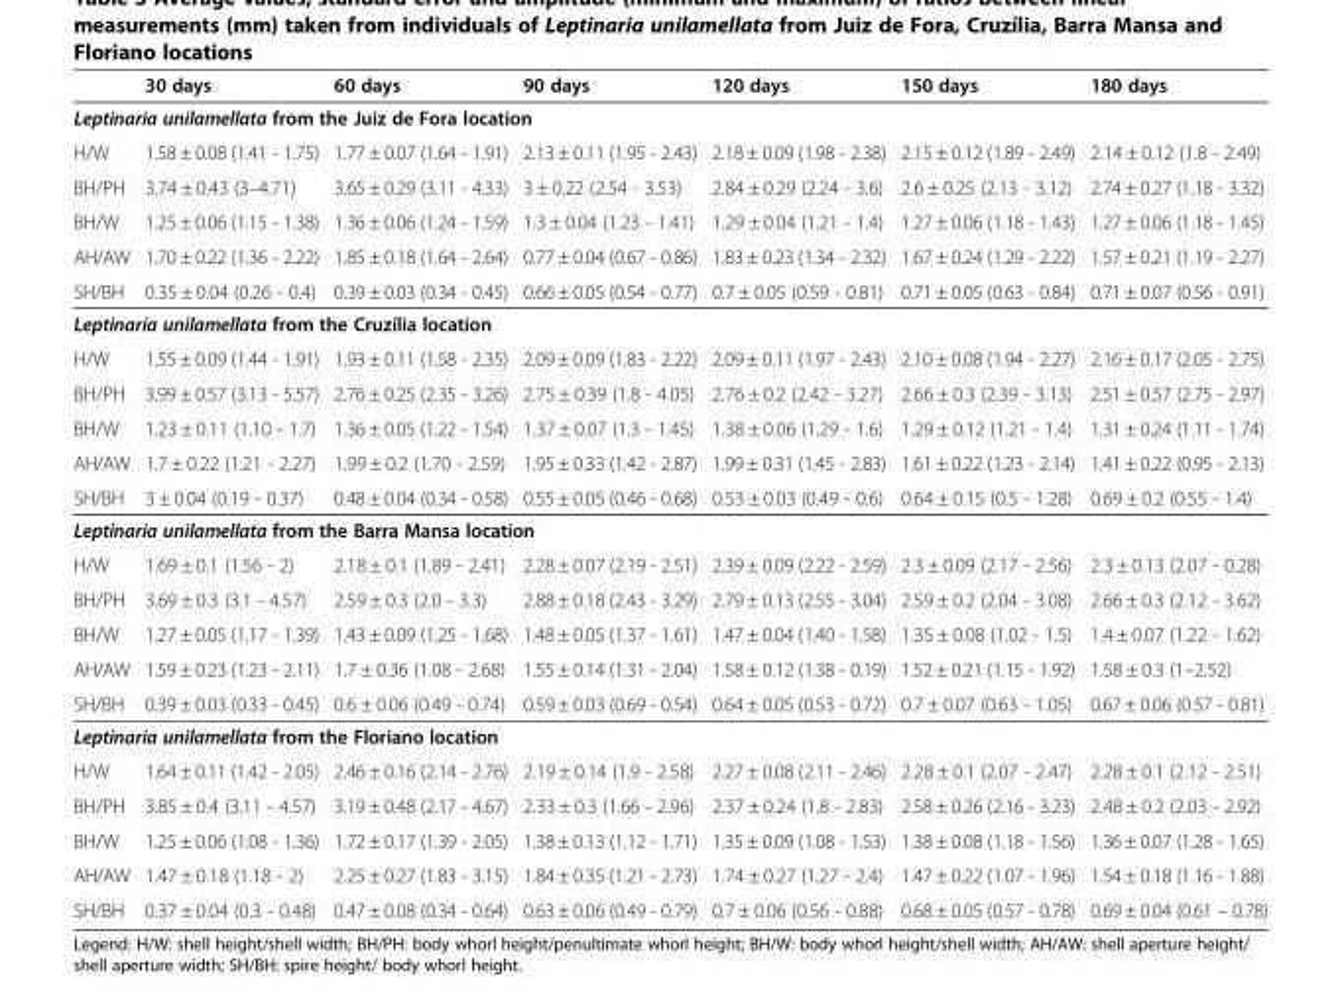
<table><thead><tr><td></td><td>30 days</td><td>60 days</td><td>90 days</td><td>120 days</td><td>150 days</td><td>180 days</td></tr></thead><tbody><tr><td colspan="7">Leptinaria unilamellata from the Juiz de Fora location</td></tr><tr><td>H/W</td><td>1.58 ± 0.08 (1.41 - 1.75)</td><td>1.77 ± 0.07 (1.64 - 1.91)</td><td>2.13 ± 0.11 (1.95 - 2.43)</td><td>2.18 ± 0.09 (1.98 - 2.38)</td><td>2.15 ± 0.12 (1.89 - 2.49)</td><td>2.14 ± 0.12 (1.8 - 2.49)</td></tr><tr><td>BH/PH</td><td>3.74 ± 0.43 (3–4.71)</td><td>3.65 ± 0.29 (3.11 - 4.33)</td><td>3 ± 0.22 (2.54 - 3.53)</td><td>2.84 ± 0.29 (2.24 - 3.6)</td><td>2.6 ± 0.25 (2.13 - 3.12)</td><td>2.74 ± 0.27 (1.18 - 3.32)</td></tr><tr><td>BH/W</td><td>1.25 ± 0.06 (1.15 - 1.38)</td><td>1.36 ± 0.06 (1.24 - 1.59)</td><td>1.3 ± 0.04 (1.23 - 1.41)</td><td>1.29 ± 0.04 (1.21 - 1.4)</td><td>1.27 ± 0.06 (1.18 - 1.43)</td><td>1.27 ± 0.06 (1.18 - 1.45)</td></tr><tr><td>AH/AW</td><td>1.70 ± 0.22 (1.36 - 2.22)</td><td>1.85 ± 0.18 (1.64 - 2.64)</td><td>0.77 ± 0.04 (0.67 - 0.86)</td><td>1.83 ± 0.23 (1.34 - 2.32)</td><td>1.67 ± 0.24 (1.29 - 2.22)</td><td>1.57 ± 0.21 (1.19 - 2.27)</td></tr><tr><td>SH/BH</td><td>0.35 ± 0.04 (0.26 - 0.4)</td><td>0.39 ± 0.03 (0.34 - 0.45)</td><td>0.66 ± 0.05 (0.54 - 0.77)</td><td>0.7 ± 0.05 (0.59 - 0.81)</td><td>0.71 ± 0.05 (0.63 - 0.84)</td><td>0.71 ± 0.07 (0.56 - 0.91)</td></tr><tr><td colspan="7">Leptinaria unilamellata from the Cruzília location</td></tr><tr><td>H/W</td><td>1.55 ± 0.09 (1.44 - 1.91)</td><td>1.93 ± 0.11 (1.58 - 2.35)</td><td>2.09 ± 0.09 (1.83 - 2.22)</td><td>2.09 ± 0.11 (1.97 - 2.43)</td><td>2.10 ± 0.08 (1.94 - 2.27)</td><td>2.16 ± 0.17 (2.05 - 2.75)</td></tr><tr><td>BH/PH</td><td>3.99 ± 0.57 (3.13 - 5.57)</td><td>2.76 ± 0.25 (2.35 - 3.26)</td><td>2.75 ± 0.39 (1.8 - 4.05)</td><td>2.76 ± 0.2 (2.42 - 3.27)</td><td>2.66 ± 0.3 (2.39 - 3.13)</td><td>2.51 ± 0.57 (2.75 - 2.97)</td></tr><tr><td>BH/W</td><td>1.23 ± 0.11 (1.10 - 1.7)</td><td>1.36 ± 0.05 (1.22 - 1.54)</td><td>1.37 ± 0.07 (1.3 - 1.45)</td><td>1.38 ± 0.06 (1.29 - 1.6)</td><td>1.29 ± 0.12 (1.21 - 1.4)</td><td>1.31 ± 0.24 (1.11 - 1.74)</td></tr><tr><td>AH/AW</td><td>1.7 ± 0.22 (1.21 - 2.27)</td><td>1.99 ± 0.2 (1.70 - 2.59)</td><td>1.95 ± 0.33 (1.42 - 2.87)</td><td>1.99 ± 0.31 (1.45 - 2.83)</td><td>1.61 ± 0.22 (1.23 - 2.14)</td><td>1.41 ± 0.22 (0.95 - 2.13)</td></tr><tr><td>SH/BH</td><td>3 ± 0.04 (0.19 - 0.37)</td><td>0.48 ± 0.04 (0.34 - 0.58)</td><td>0.55 ± 0.05 (0.46 - 0.68)</td><td>0.53 ± 0.03 (0.49 - 0.6)</td><td>0.64 ± 0.15 (0.5 - 1.28)</td><td>0.69 ± 0.2 (0.55 - 1.4)</td></tr><tr><td colspan="7">Leptinaria unilamellata from the Barra Mansa location</td></tr><tr><td>H/W</td><td>1.69 ± 0.1 (1.56 - 2)</td><td>2.18 ± 0.1 (1.89 - 2.41)</td><td>2.28 ± 0.07 (2.19 - 2.51)</td><td>2.39 ± 0.09 (2.22 - 2.59)</td><td>2.3 ± 0.09 (2.17 - 2.56)</td><td>2.3 ± 0.13 (2.07 - 0.28)</td></tr><tr><td>BH/PH</td><td>3.69 ± 0.3 (3.1 - 4.57)</td><td>2.59 ± 0.3 (2.0 - 3.3)</td><td>2.88 ± 0.18 (2.43 - 3.29)</td><td>2.79 ± 0.13 (2.55 - 3.04)</td><td>2.59 ± 0.2 (2.04 - 3.08)</td><td>2.66 ± 0.3 (2.12 - 3.62)</td></tr><tr><td>BH/W</td><td>1.27 ± 0.05 (1.17 - 1.39)</td><td>1.43 ± 0.09 (1.25 - 1.68)</td><td>1.48 ± 0.05 (1.37 - 1.61)</td><td>1.47 ± 0.04 (1.40 - 1.58)</td><td>1.35 ± 0.08 (1.02 - 1.5)</td><td>1.4 ± 0.07 (1.22 - 1.62)</td></tr><tr><td>AH/AW</td><td>1.59 ± 0.23 (1.23 - 2.11)</td><td>1.7 ± 0.36 (1.08 - 2.68)</td><td>1.55 ± 0.14 (1.31 - 2.04)</td><td>1.58 ± 0.12 (1.38 - 0.19)</td><td>1.52 ± 0.21 (1.15 - 1.92)</td><td>1.58 ± 0.3 (1–2.52)</td></tr><tr><td>SH/BH</td><td>0.39 ± 0.03 (0.33 - 0.45)</td><td>0.6 ± 0.06 (0.49 - 0.74)</td><td>0.59 ± 0.03 (0.69 - 0.54)</td><td>0.64 ± 0.05 (0.53 - 0.72)</td><td>0.7 ± 0.07 (0.63 - 1.05)</td><td>0.67 ± 0.06 (0.57 - 0.81)</td></tr><tr><td colspan="7">Leptinaria unilamellata from the Floriano location</td></tr><tr><td>H/W</td><td>1.64 ± 0.11 (1.42 - 2.05)</td><td>2.46 ± 0.16 (2.14 - 2.76)</td><td>2.19 ± 0.14 (1.9 - 2.58)</td><td>2.27 ± 0.08 (2.11 - 2.46)</td><td>2.28 ± 0.1 (2.07 - 2.47)</td><td>2.28 ± 0.1 (2.12 - 2.51)</td></tr><tr><td>BH/PH</td><td>3.85 ± 0.4 (3.11 - 4.57)</td><td>3.19 ± 0.48 (2.17 - 4.67)</td><td>2.33 ± 0.3 (1.66 - 2.96)</td><td>2.37 ± 0.24 (1.8 - 2.83)</td><td>2.58 ± 0.26 (2.16 - 3.23)</td><td>2.48 ± 0.2 (2.03 - 2.92)</td></tr><tr><td>BH/W</td><td>1.25 ± 0.06 (1.08 - 1.36)</td><td>1.72 ± 0.17 (1.39 - 2.05)</td><td>1.38 ± 0.13 (1.12 - 1.71)</td><td>1.35 ± 0.09 (1.08 - 1.53)</td><td>1.38 ± 0.08 (1.18 - 1.56)</td><td>1.36 ± 0.07 (1.28 - 1.65)</td></tr><tr><td>AH/AW</td><td>1.47 ± 0.18 (1.18 - 2)</td><td>2.25 ± 0.27 (1.83 - 3.15)</td><td>1.84 ± 0.35 (1.21 - 2.73)</td><td>1.74 ± 0.27 (1.27 - 2.4)</td><td>1.47 ± 0.22 (1.07 - 1.96)</td><td>1.54 ± 0.18 (1.16 - 1.88)</td></tr><tr><td>SH/BH</td><td>0.37 ± 0.04 (0.3 - 0.48)</td><td>0.47 ± 0.08 (0.34 - 0.64)</td><td>0.63 ± 0.06 (0.49 - 0.79)</td><td>0.7 ± 0.06 (0.56 - 0.88)</td><td>0.68 ± 0.05 (0.57 - 0.78)</td><td>0.69 ± 0.04 (0.61 – 0.78)</td></tr></tbody></table>